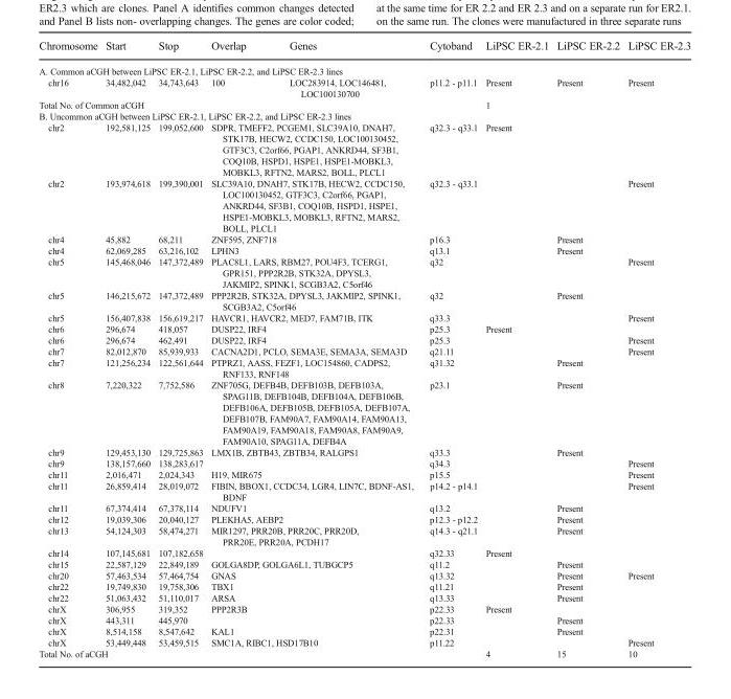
<table><thead><tr><td>Chromosome</td><td>Start</td><td>Stop</td><td>Overlap</td><td>Genes</td><td>Cytoband</td><td>LiPSC ER-2.1</td><td>LiPSC ER-2.2</td><td>LiPSC ER-2.3</td></tr></thead><tbody><tr><td colspan="9">A. Common aCGH between LiPSC ER-2.1, LiPSC ER-2.2, and LiPSC ER-2.3 lines</td></tr><tr><td>chr16</td><td>34,482,042</td><td>34,743,643</td><td>100</td><td>LOC283914, LOC146481, LOC100130700</td><td>p11.2 - p11.1</td><td>Present</td><td>Present</td><td>Present</td></tr><tr><td colspan="6">Total No. of Common aCGH</td><td colspan="3">1</td></tr><tr><td colspan="9">B. Uncommon aCGH between LiPSC ER-2.1, LiPSC ER-2.2, and LiPSC ER-2.3 lines</td></tr><tr><td>chr2</td><td>192,581,125</td><td>199,052,600</td><td colspan="2">SDPR, TMEFF2, PCGEM1, SLC39A10, DNAH7, STK17B, HECW2, CCDC150, LOC100130452, GTF3C3, C2orf66, PGAP1, ANKRD44, SF3B1, COQ10B, HSPD1, HSPE1, HSPE1-MOBKL3, MOBKL3, RFTN2, MARS2, BOLL, PLCL1</td><td>q32.3 - q33.1</td><td>Present</td><td></td><td></td></tr><tr><td>chr2</td><td>193,974,618</td><td>199,390,001</td><td colspan="2">SLC39A10, DNAH7, STK17B, HECW2, CCDC150, LOC100130452, GTF3C3, C2orf66, PGAP1, ANKRD44, SF3B1, COQ10B, HSPD1, HSPE1, HSPE1-MOBKL3, MOBKL3, RFTN2, MARS2, BOLL, PLCL1</td><td>q32.3 - q33.1</td><td></td><td></td><td>Present</td></tr><tr><td>chr4</td><td>45,882</td><td>68,211</td><td colspan="2">ZNF595, ZNF718</td><td>p16.3</td><td></td><td>Present</td><td></td></tr><tr><td>chr4</td><td>62,069,285</td><td>63,216,102</td><td colspan="2">LPHN3</td><td>q13.1</td><td></td><td>Present</td><td></td></tr><tr><td>chr5</td><td>145,468,046</td><td>147,372,489</td><td colspan="2">PLAC8L1, LARS, RBM27, POU4F3, TCERG1, GPR151, PPP2R2B, STK32A, DPYSL3, JAKMIP2, SPINK1, SCGB3A2, C5orf46</td><td>q32</td><td></td><td></td><td>Present</td></tr><tr><td>chr5</td><td>146,215,672</td><td>147,372,489</td><td colspan="2">PPP2R2B, STK32A, DPYSL3, JAKMIP2, SPINK1, SCGB3A2, C5orf46</td><td>q32</td><td></td><td>Present</td><td></td></tr><tr><td>chr5</td><td>156,407,838</td><td>156,619,217</td><td colspan="2">HAVCR1, HAVCR2, MED7, FAM71B, ITK</td><td>q33.3</td><td></td><td></td><td>Present</td></tr><tr><td>chr6</td><td>296,674</td><td>418,057</td><td colspan="2">DUSP22, IRF4</td><td>p25.3</td><td>Present</td><td></td><td></td></tr><tr><td>chr6</td><td>296,674</td><td>462,491</td><td colspan="2">DUSP22, IRF4</td><td>p25.3</td><td></td><td></td><td>Present</td></tr><tr><td>chr7</td><td>82,012,870</td><td>85,939,933</td><td colspan="2">CACNA2D1, PCLO, SEMA3E, SEMA3A, SEMA3D</td><td>q21.11</td><td></td><td></td><td>Present</td></tr><tr><td>chr7</td><td>121,256,234</td><td>122,561,644</td><td colspan="2">PTPRZ1, AASS, FEZF1, LOC154860, CADPS2, RNF133, RNF148</td><td>q31.32</td><td></td><td>Present</td><td></td></tr><tr><td>chr8</td><td>7,220,322</td><td>7,752,586</td><td colspan="2">ZNF705G, DEFB4B, DEFB103B, DEFB103A, SPAG11B, DEFB104B, DEFB104A, DEFB106B, DEFB106A, DEFB105B, DEFB105A, DEFB107A, DEFB107B, FAM90A7, FAM90A14, FAM90A13, FAM90A19, FAM90A18, FAM90A8, FAM90A9, FAM90A10, SPAG11A, DEFB4A</td><td>p23.1</td><td></td><td>Present</td><td></td></tr><tr><td>chr9</td><td>129,453,130</td><td>129,725,863</td><td colspan="2">LMX1B, ZBTB43, ZBTB34, RALGPS1</td><td>q33.3</td><td></td><td>Present</td><td></td></tr><tr><td>chr9</td><td>138,157,660</td><td>138,283,617</td><td colspan="2"></td><td>q34.3</td><td></td><td></td><td>Present</td></tr><tr><td>chr11</td><td>2,016,471</td><td>2,024,343</td><td colspan="2">H19, MIR675</td><td>p15.5</td><td></td><td></td><td>Present</td></tr><tr><td>chr11</td><td>26,859,414</td><td>28,019,072</td><td colspan="2">FIBIN, BBOX1, CCDC34, LGR4, LIN7C, BDNF-AS1, BDNF</td><td>p14.2 - p14.1</td><td></td><td></td><td>Present</td></tr><tr><td>chr11</td><td>67,374,414</td><td>67,378,114</td><td colspan="2">NDUFV1</td><td>q13.2</td><td></td><td>Present</td><td></td></tr><tr><td>chr12</td><td>19,039,306</td><td>20,040,127</td><td colspan="2">PLEKHA5, AEBP2</td><td>p12.3 - p12.2</td><td></td><td>Present</td><td></td></tr><tr><td>chr13</td><td>54,124,303</td><td>58,474,271</td><td colspan="2">MIR1297, PRR20B, PRR20C, PRR20D, PRR20E, PRR20A, PCDH17</td><td>q14.3 - q21.1</td><td></td><td>Present</td><td></td></tr><tr><td>chr14</td><td>107,145,681</td><td>107,182,658</td><td colspan="2"></td><td>q32.33</td><td>Present</td><td></td><td></td></tr><tr><td>chr15</td><td>22,587,129</td><td>22,849,189</td><td colspan="2">GOLGA8DP, GOLGA6L1, TUBGCP5</td><td>q11.2</td><td></td><td>Present</td><td></td></tr><tr><td>chr20</td><td>57,463,534</td><td>57,464,754</td><td colspan="2">GNAS</td><td>q13.32</td><td></td><td>Present</td><td>Present</td></tr><tr><td>chr22</td><td>19,749,830</td><td>19,758,306</td><td colspan="2">TBX1</td><td>q11.21</td><td></td><td>Present</td><td></td></tr><tr><td>chr22</td><td>51,063,432</td><td>51,110,017</td><td colspan="2">ARSA</td><td>q13.33</td><td></td><td>Present</td><td></td></tr><tr><td>chrX</td><td>306,955</td><td>319,352</td><td colspan="2">PPP2R3B</td><td>p22.33</td><td>Present</td><td></td><td></td></tr><tr><td>chrX</td><td>443,311</td><td>445,970</td><td colspan="2"></td><td>p22.33</td><td></td><td>Present</td><td></td></tr><tr><td>chrX</td><td>8,514,158</td><td>8,547,642</td><td colspan="2">KAL1</td><td>p22.31</td><td></td><td>Present</td><td></td></tr><tr><td>chrX</td><td>53,449,448</td><td>53,459,515</td><td colspan="2">SMC1A, RIBC1, HSD17B10</td><td>p11.22</td><td></td><td></td><td>Present</td></tr><tr><td colspan="6">Total No. of aCGH</td><td>4</td><td>15</td><td>10</td></tr></tbody></table>